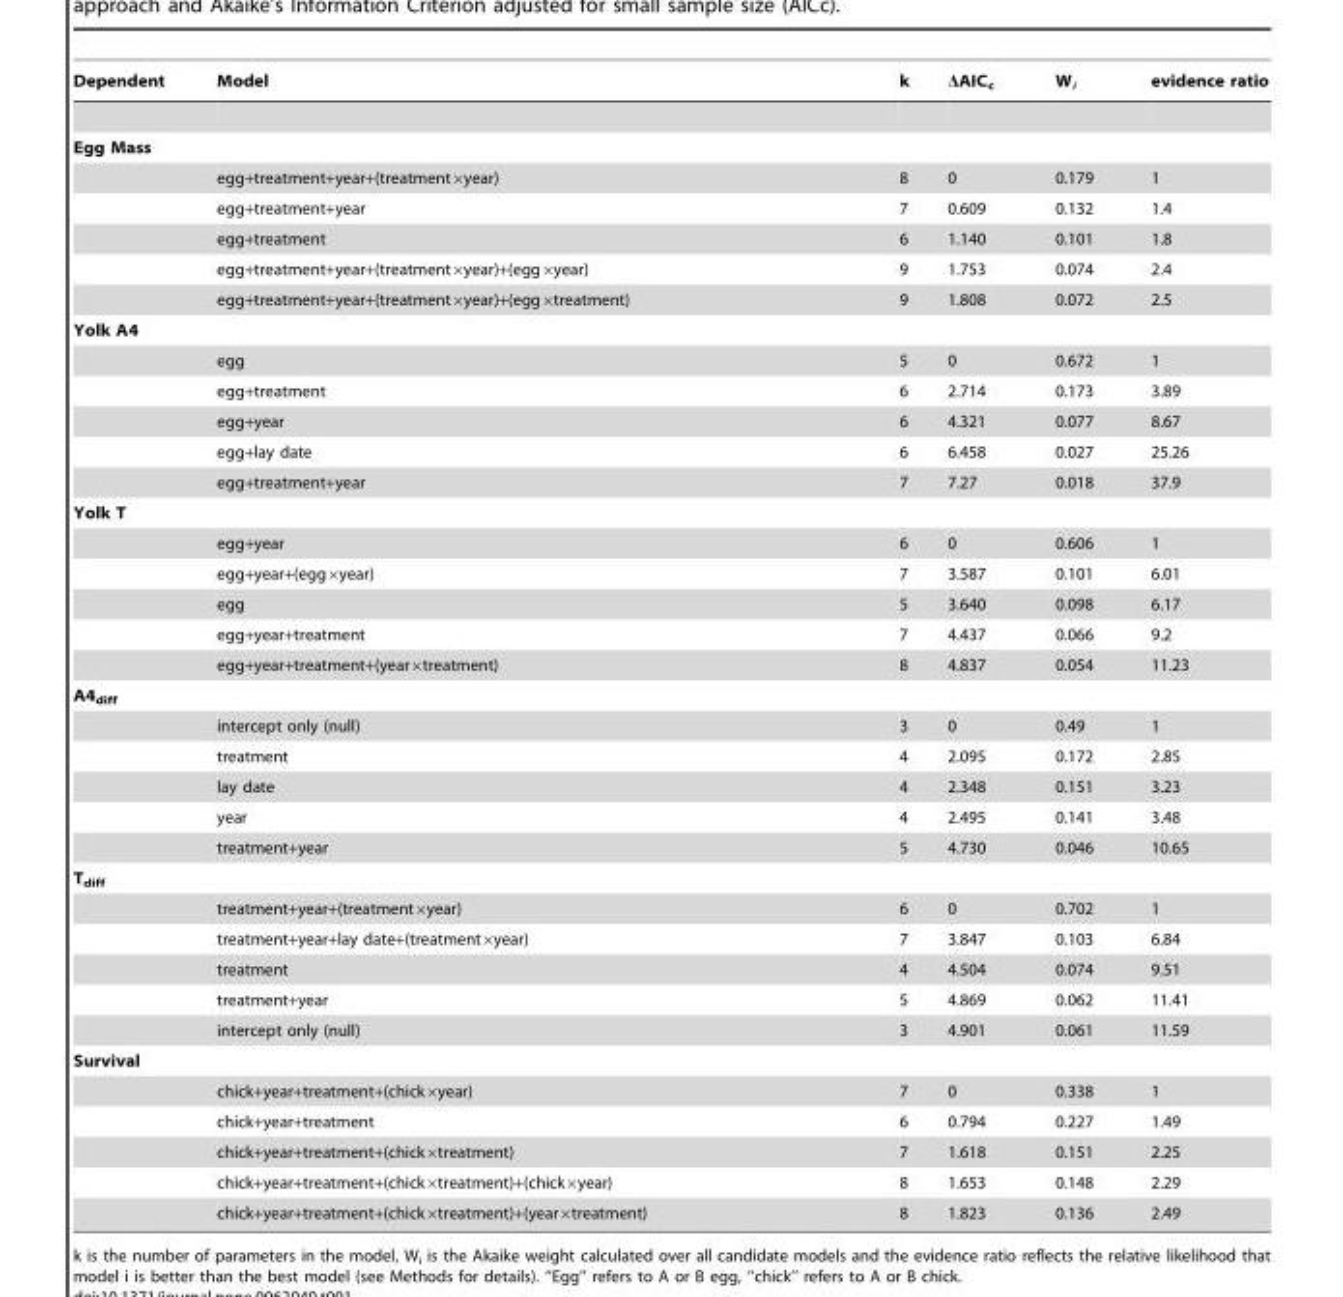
<table><thead><tr><td>Dependent</td><td>Model</td><td>k</td><td>ΔAIC<sub>c</sub></td><td>W<sub>i</sub></td><td>evidence ratio</td></tr></thead><tbody><tr><td colspan="6">Egg Mass</td></tr><tr><td></td><td>egg+treatment+year+(treatment×year)</td><td>8</td><td>0</td><td>0.179</td><td>1</td></tr><tr><td></td><td>egg+treatment+year</td><td>7</td><td>0.609</td><td>0.132</td><td>1.4</td></tr><tr><td></td><td>egg+treatment</td><td>6</td><td>1.140</td><td>0.101</td><td>1.8</td></tr><tr><td></td><td>egg+treatment+year+(treatment×year)+(egg×year)</td><td>9</td><td>1.753</td><td>0.074</td><td>2.4</td></tr><tr><td></td><td>egg+treatment+year+(treatment×year)+(egg×treatment)</td><td>9</td><td>1.808</td><td>0.072</td><td>2.5</td></tr><tr><td colspan="6">Yolk A4</td></tr><tr><td></td><td>egg</td><td>5</td><td>0</td><td>0.672</td><td>1</td></tr><tr><td></td><td>egg+treatment</td><td>6</td><td>2.714</td><td>0.173</td><td>3.89</td></tr><tr><td></td><td>egg+year</td><td>6</td><td>4.321</td><td>0.077</td><td>8.67</td></tr><tr><td></td><td>egg+lay date</td><td>6</td><td>6.458</td><td>0.027</td><td>25.26</td></tr><tr><td></td><td>egg+treatment+year</td><td>7</td><td>7.27</td><td>0.018</td><td>37.9</td></tr><tr><td colspan="6">Yolk T</td></tr><tr><td></td><td>egg+year</td><td>6</td><td>0</td><td>0.606</td><td>1</td></tr><tr><td></td><td>egg+year+(egg×year)</td><td>7</td><td>3.587</td><td>0.101</td><td>6.01</td></tr><tr><td></td><td>egg</td><td>5</td><td>3.640</td><td>0.098</td><td>6.17</td></tr><tr><td></td><td>egg+year+treatment</td><td>7</td><td>4.437</td><td>0.066</td><td>9.2</td></tr><tr><td></td><td>egg+year+treatment+(year×treatment)</td><td>8</td><td>4.837</td><td>0.054</td><td>11.23</td></tr><tr><td colspan="6">A4<sub>diff</sub></td></tr><tr><td></td><td>intercept only (null)</td><td>3</td><td>0</td><td>0.49</td><td>1</td></tr><tr><td></td><td>treatment</td><td>4</td><td>2.095</td><td>0.172</td><td>2.85</td></tr><tr><td></td><td>lay date</td><td>4</td><td>2.348</td><td>0.151</td><td>3.23</td></tr><tr><td></td><td>year</td><td>4</td><td>2.495</td><td>0.141</td><td>3.48</td></tr><tr><td></td><td>treatment+year</td><td>5</td><td>4.730</td><td>0.046</td><td>10.65</td></tr><tr><td colspan="6">T<sub>diff</sub></td></tr><tr><td></td><td>treatment+year+(treatment×year)</td><td>6</td><td>0</td><td>0.702</td><td>1</td></tr><tr><td></td><td>treatment+year+lay date+(treatment×year)</td><td>7</td><td>3.847</td><td>0.103</td><td>6.84</td></tr><tr><td></td><td>treatment</td><td>4</td><td>4.504</td><td>0.074</td><td>9.51</td></tr><tr><td></td><td>treatment+year</td><td>5</td><td>4.869</td><td>0.062</td><td>11.41</td></tr><tr><td></td><td>intercept only (null)</td><td>3</td><td>4.901</td><td>0.061</td><td>11.59</td></tr><tr><td colspan="6">Survival</td></tr><tr><td></td><td>chick+year+treatment+(chick×year)</td><td>7</td><td>0</td><td>0.338</td><td>1</td></tr><tr><td></td><td>chick+year+treatment</td><td>6</td><td>0.794</td><td>0.227</td><td>1.49</td></tr><tr><td></td><td>chick+year+treatment+(chick×treatment)</td><td>7</td><td>1.618</td><td>0.151</td><td>2.25</td></tr><tr><td></td><td>chick+year+treatment+(chick×treatment)+(chick×year)</td><td>8</td><td>1.653</td><td>0.148</td><td>2.29</td></tr><tr><td></td><td>chick+year+treatment+(chick×treatment)+(year×treatment)</td><td>8</td><td>1.823</td><td>0.136</td><td>2.49</td></tr></tbody></table>